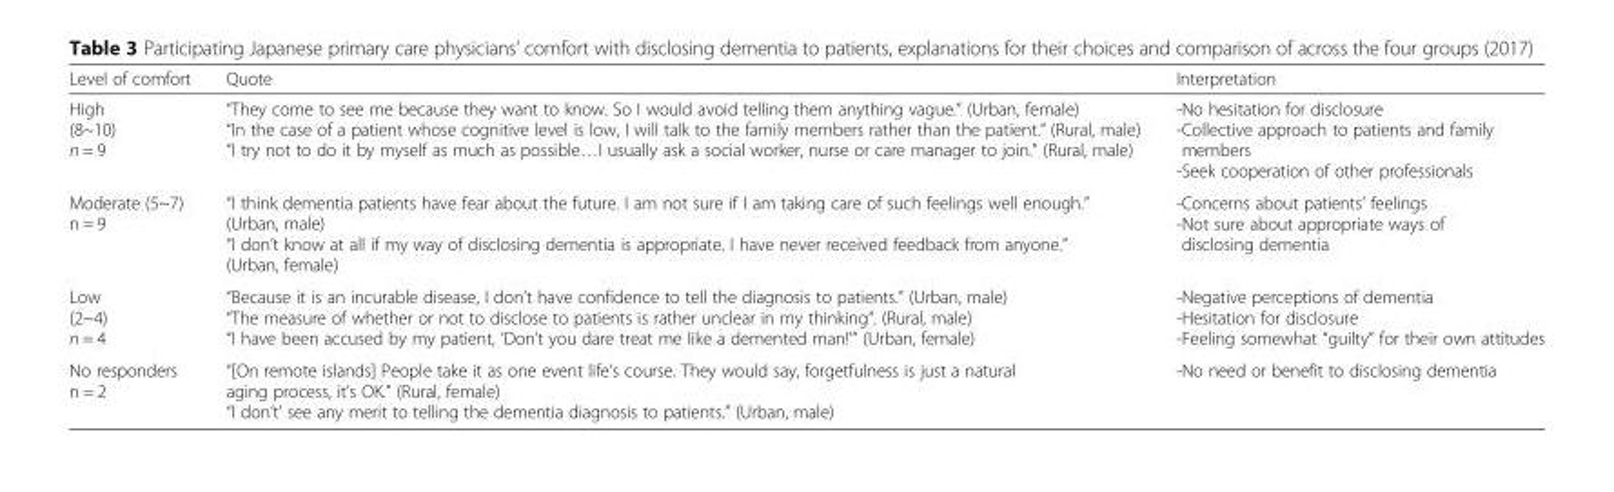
<table><thead><tr><td>Level of comfort</td><td>Quote</td><td>Interpretation</td></tr></thead><tbody><tr><td>High (8~10) n = 9</td><td>“They come to see me because they want to know. So I would avoid telling them anything vague.” (Urban, female) “In the case of a patient whose cognitive level is low, I will talk to the family members rather than the patient.” (Rural, male) “I try not to do it by myself as much as possible…I usually ask a social worker, nurse or care manager to join.” (Rural, male)</td><td>-No hesitation for disclosure -Collective approach to patients and family members -Seek cooperation of other professionals</td></tr><tr><td>Moderate (5~7) n = 9</td><td>“I think dementia patients have fear about the future. I am not sure if I am taking care of such feelings well enough.” (Urban, male) “I don’t know at all if my way of disclosing dementia is appropriate. I have never received feedback from anyone.” (Urban, female)</td><td>-Concerns about patients’ feelings -Not sure about appropriate ways of disclosing dementia</td></tr><tr><td>Low (2~4) n = 4</td><td>“Because it is an incurable disease, I don’t have confidence to tell the diagnosis to patients.” (Urban, male) “The measure of whether or not to disclose to patients is rather unclear in my thinking”. (Rural, male) “I have been accused by my patient, ‘Don’t you dare treat me like a demented man!’” (Urban, female)</td><td>-Negative perceptions of dementia -Hesitation for disclosure -Feeling somewhat “guilty” for their own attitudes</td></tr><tr><td>No responders n = 2</td><td>“[On remote islands] People take it as one event life’s course. They would say, forgetfulness is just a natural aging process, it’s OK.” (Rural, female) “I don’t’ see any merit to telling the dementia diagnosis to patients.” (Urban, male)</td><td>-No need or benefit to disclosing dementia</td></tr></tbody></table>